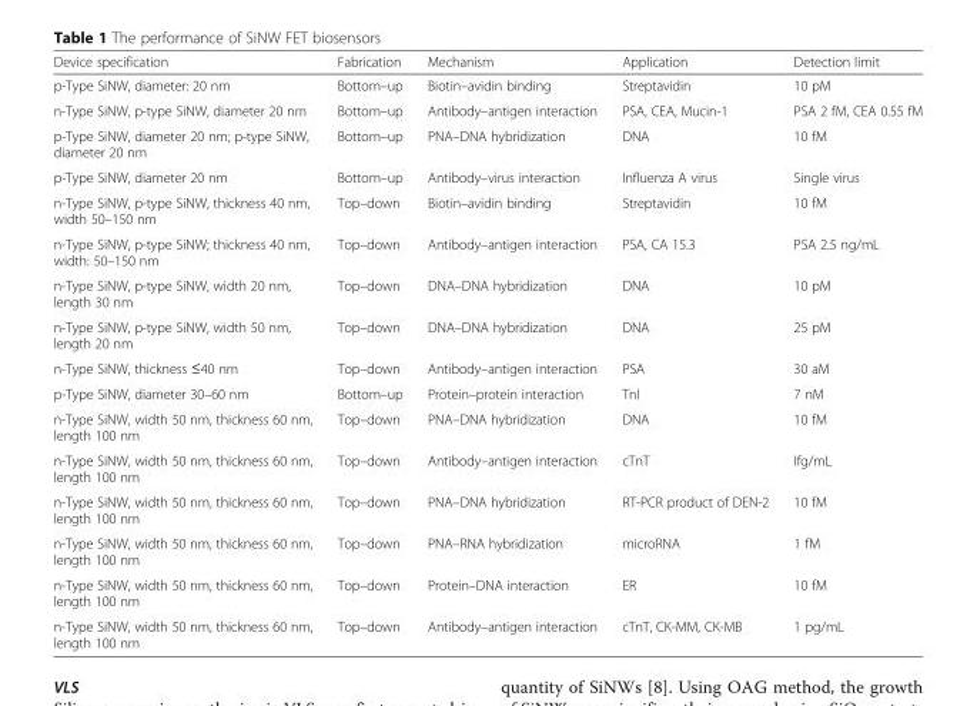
<table><thead><tr><td>Device specification</td><td>Fabrication</td><td>Mechanism</td><td>Application</td><td>Detection limit</td></tr></thead><tbody><tr><td>p-Type SiNW, diameter: 20 nm</td><td>Bottom–up</td><td>Biotin–avidin binding</td><td>Streptavidin</td><td>10 pM</td></tr><tr><td>n-Type SiNW, p-type SiNW, diameter 20 nm</td><td>Bottom–up</td><td>Antibody–antigen interaction</td><td>PSA, CEA, Mucin-1</td><td>PSA 2 fM, CEA 0.55 fM</td></tr><tr><td>p-Type SiNW, diameter 20 nm; p-type SiNW, diameter 20 nm</td><td>Bottom–up</td><td>PNA–DNA hybridization</td><td>DNA</td><td>10 fM</td></tr><tr><td>p-Type SiNW, diameter 20 nm</td><td>Bottom–up</td><td>Antibody–virus interaction</td><td>Influenza A virus</td><td>Single virus</td></tr><tr><td>n-Type SiNW, p-type SiNW, thickness 40 nm, width 50–150 nm</td><td>Top–down</td><td>Biotin–avidin binding</td><td>Streptavidin</td><td>10 fM</td></tr><tr><td>n-Type SiNW, p-type SiNW; thickness 40 nm, width: 50–150 nm</td><td>Top–down</td><td>Antibody–antigen interaction</td><td>PSA, CA 15.3</td><td>PSA 2.5 ng/mL</td></tr><tr><td>n-Type SiNW, p-type SiNW, width 20 nm, length 30 nm</td><td>Top–down</td><td>DNA–DNA hybridization</td><td>DNA</td><td>10 pM</td></tr><tr><td>n-Type SiNW, p-type SiNW, width 50 nm, length 20 nm</td><td>Top–down</td><td>DNA–DNA hybridization</td><td>DNA</td><td>25 pM</td></tr><tr><td>n-Type SiNW, thickness ≤40 nm</td><td>Top–down</td><td>Antibody–antigen interaction</td><td>PSA</td><td>30 aM</td></tr><tr><td>p-Type SiNW, diameter 30–60 nm</td><td>Bottom–up</td><td>Protein–protein interaction</td><td>TnI</td><td>7 nM</td></tr><tr><td>n-Type SiNW, width 50 nm, thickness 60 nm, length 100 nm</td><td>Top–down</td><td>PNA–DNA hybridization</td><td>DNA</td><td>10 fM</td></tr><tr><td>n-Type SiNW, width 50 nm, thickness 60 nm, length 100 nm</td><td>Top–down</td><td>Antibody–antigen interaction</td><td>cTnT</td><td>Ifg/mL</td></tr><tr><td>n-Type SiNW, width 50 nm, thickness 60 nm, length 100 nm</td><td>Top–down</td><td>PNA–DNA hybridization</td><td>RT-PCR product of DEN-2</td><td>10 fM</td></tr><tr><td>n-Type SiNW, width 50 nm, thickness 60 nm, length 100 nm</td><td>Top–down</td><td>PNA–RNA hybridization</td><td>microRNA</td><td>1 fM</td></tr><tr><td>n-Type SiNW, width 50 nm, thickness 60 nm, length 100 nm</td><td>Top–down</td><td>Protein–DNA interaction</td><td>ER</td><td>10 fM</td></tr><tr><td>n-Type SiNW, width 50 nm, thickness 60 nm, length 100 nm</td><td>Top–down</td><td>Antibody–antigen interaction</td><td>cTnT, CK-MM, CK-MB</td><td>1 pg/mL</td></tr></tbody></table>